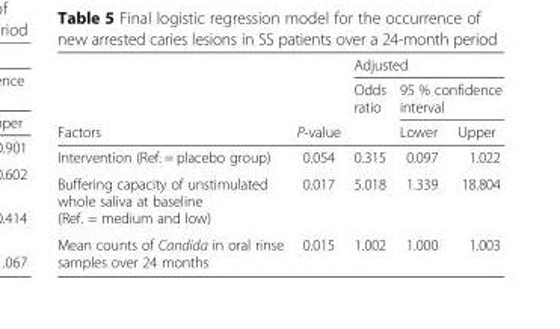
<table><thead><tr><td rowspan="3">Factors</td><td rowspan="3">P-value</td><td colspan="3">Adjusted</td></tr><tr><td rowspan="2">Odds ratio</td><td colspan="2">95 % confidence interval</td></tr><tr><td>Lower</td><td>Upper</td></tr></thead><tbody><tr><td>Intervention (Ref. = placebo group)</td><td>0.054</td><td>0.315</td><td>0.097</td><td>1.022</td></tr><tr><td>Buffering capacity of unstimulated whole saliva at baseline (Ref. = medium and low)</td><td>0.017</td><td>5.018</td><td>1.339</td><td>18.804</td></tr><tr><td>Mean counts of Candida in oral rinse samples over 24 months</td><td>0.015</td><td>1.002</td><td>1.000</td><td>1.003</td></tr></tbody></table>